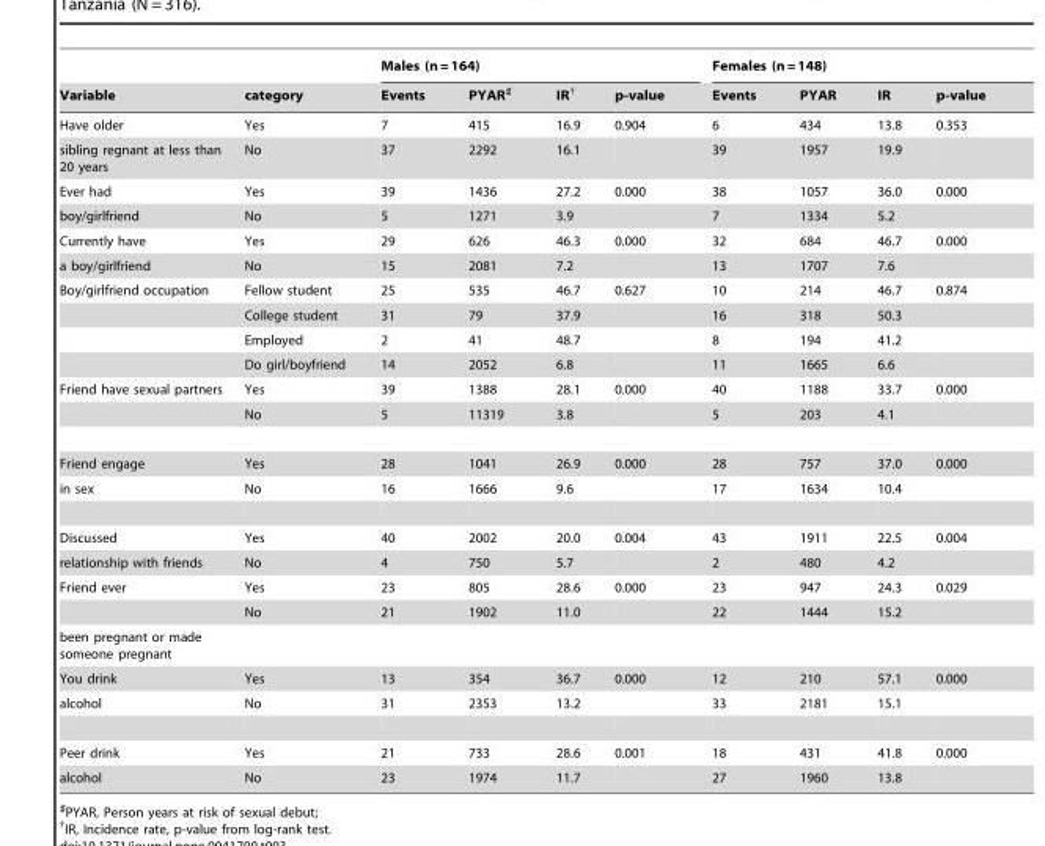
<table><thead><tr><td rowspan="2">Variable</td><td rowspan="2">category</td><td colspan="4">Males (n = 164)</td><td colspan="4">Females (n = 148)</td></tr><tr><td>Events</td><td>PYAR♯</td><td>IR†</td><td>p-value</td><td>Events</td><td>PYAR</td><td>IR</td><td>p-value</td></tr></thead><tbody><tr><td>Have older</td><td>Yes</td><td>7</td><td>415</td><td>16.9</td><td>0.904</td><td>6</td><td>434</td><td>13.8</td><td>0.353</td></tr><tr><td>sibling regnant at less than 20 years</td><td>No</td><td>37</td><td>2292</td><td>16.1</td><td></td><td>39</td><td>1957</td><td>19.9</td><td></td></tr><tr><td>Ever had</td><td>Yes</td><td>39</td><td>1436</td><td>27.2</td><td>0.000</td><td>38</td><td>1057</td><td>36.0</td><td>0.000</td></tr><tr><td>boy/girlfriend</td><td>No</td><td>5</td><td>1271</td><td>3.9</td><td></td><td>7</td><td>1334</td><td>5.2</td><td></td></tr><tr><td>Currently have</td><td>Yes</td><td>29</td><td>626</td><td>46.3</td><td>0.000</td><td>32</td><td>684</td><td>46.7</td><td>0.000</td></tr><tr><td>a boy/girlfriend</td><td>No</td><td>15</td><td>2081</td><td>7.2</td><td></td><td>13</td><td>1707</td><td>7.6</td><td></td></tr><tr><td rowspan="4">Boy/girlfriend occupation</td><td>Fellow student</td><td>25</td><td>535</td><td>46.7</td><td>0.627</td><td>10</td><td>214</td><td>46.7</td><td>0.874</td></tr><tr><td>College student</td><td>31</td><td>79</td><td>37.9</td><td></td><td>16</td><td>318</td><td>50.3</td><td></td></tr><tr><td>Employed</td><td>2</td><td>41</td><td>48.7</td><td></td><td>8</td><td>194</td><td>41.2</td><td></td></tr><tr><td>Do girl/boyfriend</td><td>14</td><td>2052</td><td>6.8</td><td></td><td>11</td><td>1665</td><td>6.6</td><td></td></tr><tr><td rowspan="2">Friend have sexual partners</td><td>Yes</td><td>39</td><td>1388</td><td>28.1</td><td>0.000</td><td>40</td><td>1188</td><td>33.7</td><td>0.000</td></tr><tr><td>No</td><td>5</td><td>11319</td><td>3.8</td><td></td><td>5</td><td>203</td><td>4.1</td><td></td></tr><tr><td>Friend engage</td><td>Yes</td><td>28</td><td>1041</td><td>26.9</td><td>0.000</td><td>28</td><td>757</td><td>37.0</td><td>0.000</td></tr><tr><td>in sex</td><td>No</td><td>16</td><td>1666</td><td>9.6</td><td></td><td>17</td><td>1634</td><td>10.4</td><td></td></tr><tr><td>Discussed</td><td>Yes</td><td>40</td><td>2002</td><td>20.0</td><td>0.004</td><td>43</td><td>1911</td><td>22.5</td><td>0.004</td></tr><tr><td>relationship with friends</td><td>No</td><td>4</td><td>750</td><td>5.7</td><td></td><td>2</td><td>480</td><td>4.2</td><td></td></tr><tr><td rowspan="2">Friend ever</td><td>Yes</td><td>23</td><td>805</td><td>28.6</td><td>0.000</td><td>23</td><td>947</td><td>24.3</td><td>0.029</td></tr><tr><td>No</td><td>21</td><td>1902</td><td>11.0</td><td></td><td>22</td><td>1444</td><td>15.2</td><td></td></tr><tr><td colspan="10">been pregnant or made someone pregnant</td></tr><tr><td>You drink</td><td>Yes</td><td>13</td><td>354</td><td>36.7</td><td>0.000</td><td>12</td><td>210</td><td>57.1</td><td>0.000</td></tr><tr><td>alcohol</td><td>No</td><td>31</td><td>2353</td><td>13.2</td><td></td><td>33</td><td>2181</td><td>15.1</td><td></td></tr><tr><td>Peer drink</td><td>Yes</td><td>21</td><td>733</td><td>28.6</td><td>0.001</td><td>18</td><td>431</td><td>41.8</td><td>0.000</td></tr><tr><td>alcohol</td><td>No</td><td>23</td><td>1974</td><td>11.7</td><td></td><td>27</td><td>1960</td><td>13.8</td><td></td></tr></tbody></table>